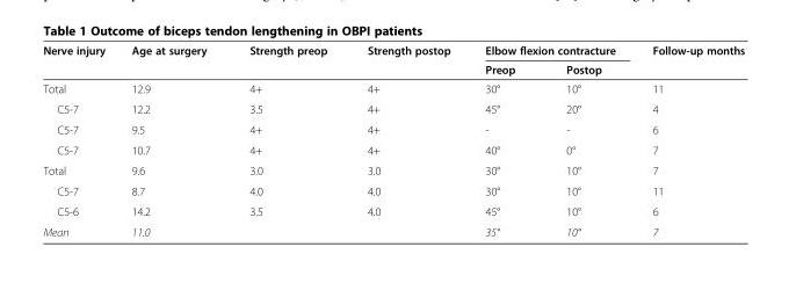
<table><thead><tr><td rowspan="2">Nerve injury</td><td rowspan="2">Age at surgery</td><td rowspan="2">Strength preop</td><td rowspan="2">Strength postop</td><td colspan="2">Elbow flexion contracture</td><td rowspan="2">Follow-up months</td></tr><tr><td>Preop</td><td>Postop</td></tr></thead><tbody><tr><td>Total</td><td>12.9</td><td>4+</td><td>4+</td><td>30°</td><td>10°</td><td>11</td></tr><tr><td>C5-7</td><td>12.2</td><td>3.5</td><td>4+</td><td>45°</td><td>20°</td><td>4</td></tr><tr><td>C5-7</td><td>9.5</td><td>4+</td><td>4+</td><td>-</td><td>-</td><td>6</td></tr><tr><td>C5-7</td><td>10.7</td><td>4+</td><td>4+</td><td>40°</td><td>0°</td><td>7</td></tr><tr><td>Total</td><td>9.6</td><td>3.0</td><td>3.0</td><td>30°</td><td>10°</td><td>7</td></tr><tr><td>C5-7</td><td>8.7</td><td>4.0</td><td>4.0</td><td>30°</td><td>10°</td><td>11</td></tr><tr><td>C5-6</td><td>14.2</td><td>3.5</td><td>4.0</td><td>45°</td><td>10°</td><td>6</td></tr><tr><td>Mean</td><td>11.0</td><td></td><td></td><td>35°</td><td>10°</td><td>7</td></tr></tbody></table>